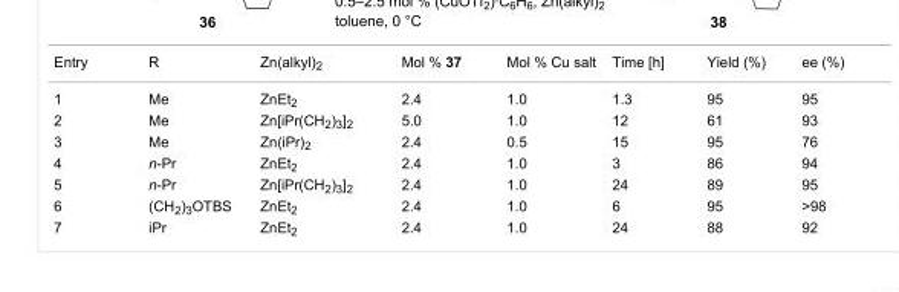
<table><tbody><tr><td>Entry</td><td>R</td><td>Zn(alkyl)<sub>2</sub></td><td>Mol % 37</td><td>Mol % Cu salt</td><td>Time [h]</td><td>Yield (%)</td><td>ee (%)</td></tr><tr><td>1</td><td>Me</td><td>ZnEt<sub>2</sub></td><td>2.4</td><td>1.0</td><td>1.3</td><td>95</td><td>95</td></tr><tr><td>2</td><td>Me</td><td>Zn[iPr(CH<sub>2</sub>)<sub>3</sub>]<sub>2</sub></td><td>5.0</td><td>1.0</td><td>12</td><td>61</td><td>93</td></tr><tr><td>3</td><td>Me</td><td>Zn(iPr)<sub>2</sub></td><td>2.4</td><td>0.5</td><td>15</td><td>95</td><td>76</td></tr><tr><td>4</td><td>n-Pr</td><td>ZnEt<sub>2</sub></td><td>2.4</td><td>1.0</td><td>3</td><td>86</td><td>94</td></tr><tr><td>5</td><td>n-Pr</td><td>Zn[iPr(CH<sub>2</sub>)<sub>3</sub>]<sub>2</sub></td><td>2.4</td><td>1.0</td><td>24</td><td>89</td><td>95</td></tr><tr><td>6</td><td>(CH<sub>2</sub>)<sub>3</sub>OTBS</td><td>ZnEt<sub>2</sub></td><td>2.4</td><td>1.0</td><td>6</td><td>95</td><td>&gt;98</td></tr><tr><td>7</td><td>iPr</td><td>ZnEt<sub>2</sub></td><td>2.4</td><td>1.0</td><td>24</td><td>88</td><td>92</td></tr></tbody></table>